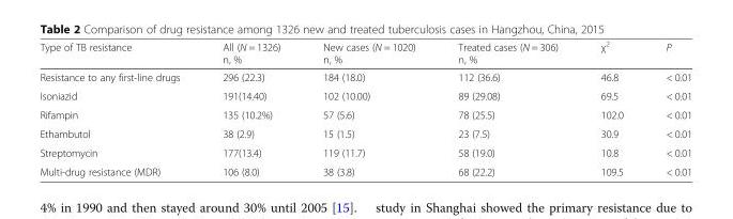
<table><thead><tr><td>Type of TB resistance</td><td>All (N = 1326) n, %</td><td>New cases (N = 1020) n, %</td><td>Treated cases (N = 306) n, %</td><td>χ<sup>2</sup></td><td>P</td></tr></thead><tbody><tr><td>Resistance to any first-line drugs</td><td>296 (22.3)</td><td>184 (18.0)</td><td>112 (36.6)</td><td>46.8</td><td>&lt; 0.01</td></tr><tr><td>Isoniazid</td><td>191(14.40)</td><td>102 (10.00)</td><td>89 (29.08)</td><td>69.5</td><td>&lt; 0.01</td></tr><tr><td>Rifampin</td><td>135 (10.2%)</td><td>57 (5.6)</td><td>78 (25.5)</td><td>102.0</td><td>&lt; 0.01</td></tr><tr><td>Ethambutol</td><td>38 (2.9)</td><td>15 (1.5)</td><td>23 (7.5)</td><td>30.9</td><td>&lt; 0.01</td></tr><tr><td>Streptomycin</td><td>177(13.4)</td><td>119 (11.7)</td><td>58 (19.0)</td><td>10.8</td><td>&lt; 0.01</td></tr><tr><td>Multi-drug resistance (MDR)</td><td>106 (8.0)</td><td>38 (3.8)</td><td>68 (22.2)</td><td>109.5</td><td>&lt; 0.01</td></tr></tbody></table>